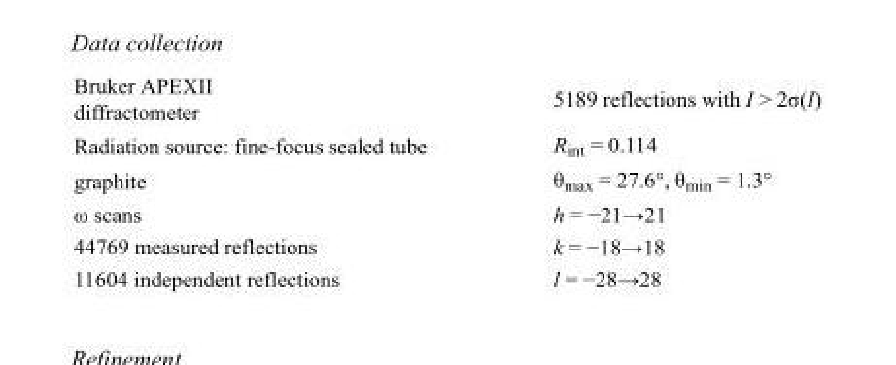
<table><tbody><tr><td>Bruker APEXII diffractometer</td><td>5189 reflections with I &gt; 2σ(I)</td></tr><tr><td>Radiation source: fine-focus sealed tube</td><td>R<sub>int</sub> = 0.114</td></tr><tr><td>graphite</td><td>θ<sub>max</sub> = 27.6°, θ<sub>min</sub> = 1.3°</td></tr><tr><td>ω scans</td><td>h = −21→21</td></tr><tr><td>44769 measured reflections</td><td>k = −18→18</td></tr><tr><td>11604 independent reflections</td><td>l = −28→28</td></tr></tbody></table>